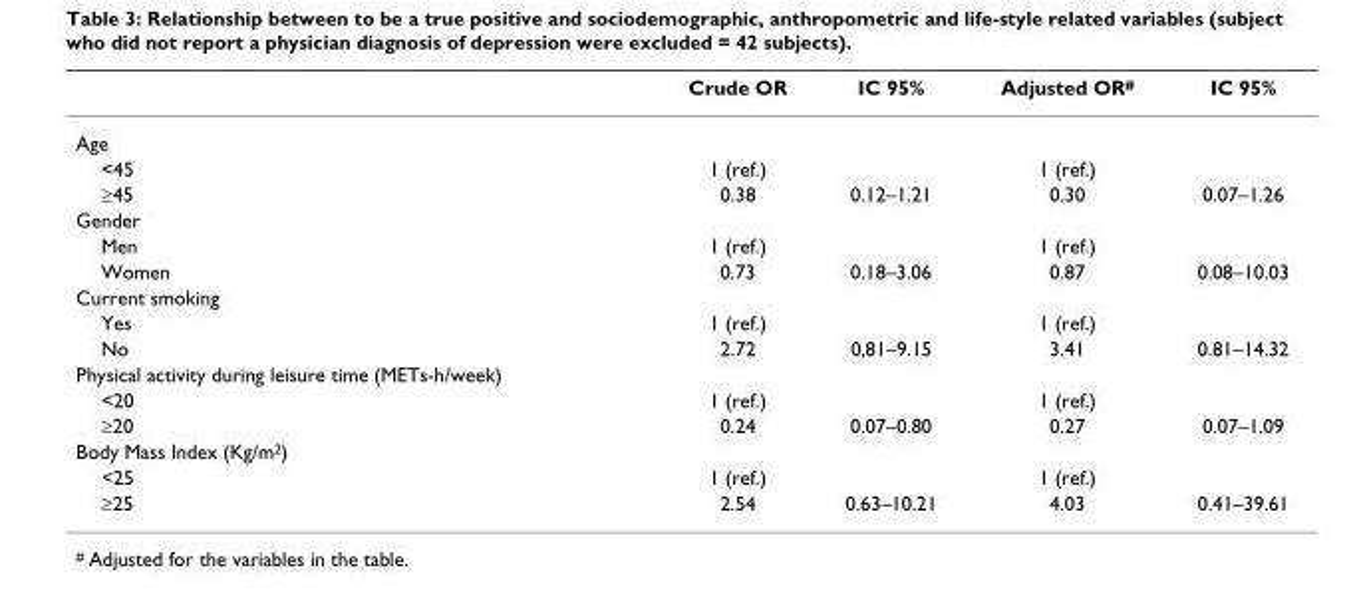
<table><thead><tr><td></td><td>Crude OR</td><td>IC 95%</td><td>Adjusted OR<sup>#</sup></td><td>IC 95%</td></tr></thead><tbody><tr><td colspan="5">Age</td></tr><tr><td>&lt;45</td><td>1 (ref.)</td><td></td><td>1 (ref.)</td><td></td></tr><tr><td>≥45</td><td>0.38</td><td>0.12–1.21</td><td>0.30</td><td>0.07–1.26</td></tr><tr><td colspan="5">Gender</td></tr><tr><td>Men</td><td>1 (ref.)</td><td></td><td>1 (ref.)</td><td></td></tr><tr><td>Women</td><td>0.73</td><td>0.18–3.06</td><td>0.87</td><td>0.08–10.03</td></tr><tr><td colspan="5">Current smoking</td></tr><tr><td>Yes</td><td>1 (ref.)</td><td></td><td>1 (ref.)</td><td></td></tr><tr><td>No</td><td>2.72</td><td>0,81–9.15</td><td>3.41</td><td>0.81–14.32</td></tr><tr><td colspan="5">Physical activity during leisure time (METs-h/week)</td></tr><tr><td>&lt;20</td><td>1 (ref.)</td><td></td><td>1 (ref.)</td><td></td></tr><tr><td>≥20</td><td>0.24</td><td>0.07–0.80</td><td>0.27</td><td>0.07–1.09</td></tr><tr><td colspan="5">Body Mass Index (Kg/m<sup>2</sup>)</td></tr><tr><td>&lt;25</td><td>1 (ref.)</td><td></td><td>1 (ref.)</td><td></td></tr><tr><td>≥25</td><td>2.54</td><td>0.63–10.21</td><td>4.03</td><td>0.41–39.61</td></tr></tbody></table>